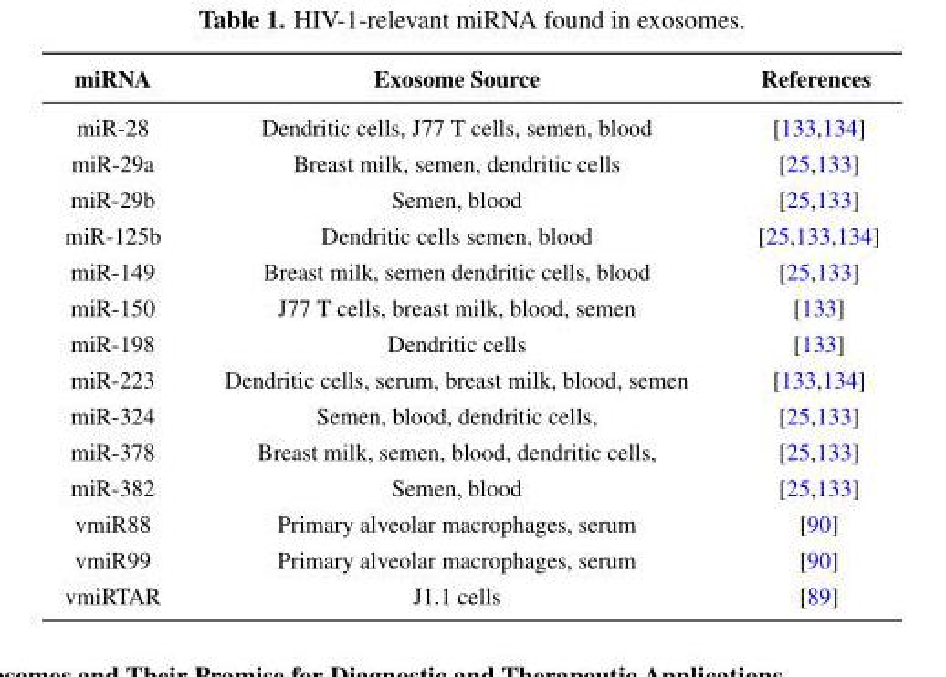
<table><thead><tr><td>miRNA</td><td>Exosome Source</td><td>References</td></tr></thead><tbody><tr><td>miR-28</td><td>Dendritic cells, J77 T cells, semen, blood</td><td>[133,134]</td></tr><tr><td>miR-29a</td><td>Breast milk, semen, dendritic cells</td><td>[25,133]</td></tr><tr><td>miR-29b</td><td>Semen, blood</td><td>[25,133]</td></tr><tr><td>miR-125b</td><td>Dendritic cells semen, blood</td><td>[25,133,134]</td></tr><tr><td>miR-149</td><td>Breast milk, semen dendritic cells, blood</td><td>[25,133]</td></tr><tr><td>miR-150</td><td>J77 T cells, breast milk, blood, semen</td><td>[133]</td></tr><tr><td>miR-198</td><td>Dendritic cells</td><td>[133]</td></tr><tr><td>miR-223</td><td>Dendritic cells, serum, breast milk, blood, semen</td><td>[133,134]</td></tr><tr><td>miR-324</td><td>Semen, blood, dendritic cells,</td><td>[25,133]</td></tr><tr><td>miR-378</td><td>Breast milk, semen, blood, dendritic cells,</td><td>[25,133]</td></tr><tr><td>miR-382</td><td>Semen, blood</td><td>[25,133]</td></tr><tr><td>vmiR88</td><td>Primary alveolar macrophages, serum</td><td>[90]</td></tr><tr><td>vmiR99</td><td>Primary alveolar macrophages, serum</td><td>[90]</td></tr><tr><td>vmiRTAR</td><td>J1.1 cells</td><td>[89]</td></tr></tbody></table>